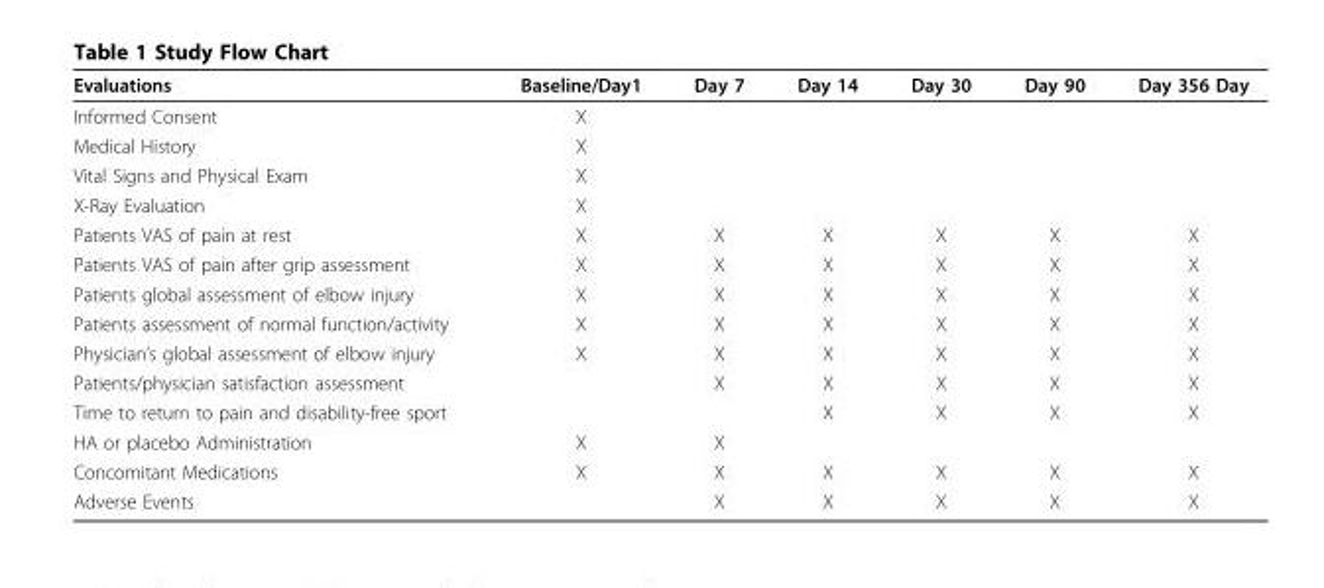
<table><thead><tr><td>Evaluations</td><td>Baseline/Day1</td><td>Day 7</td><td>Day 14</td><td>Day 30</td><td>Day 90</td><td>Day 356 Day</td></tr></thead><tbody><tr><td>Informed Consent</td><td>X</td><td></td><td></td><td></td><td></td><td></td></tr><tr><td>Medical History</td><td>X</td><td></td><td></td><td></td><td></td><td></td></tr><tr><td>Vital Signs and Physical Exam</td><td>X</td><td></td><td></td><td></td><td></td><td></td></tr><tr><td>X-Ray Evaluation</td><td>X</td><td></td><td></td><td></td><td></td><td></td></tr><tr><td>Patients VAS of pain at rest</td><td>X</td><td>X</td><td>X</td><td>X</td><td>X</td><td>X</td></tr><tr><td>Patients VAS of pain after grip assessment</td><td>X</td><td>X</td><td>X</td><td>X</td><td>X</td><td>X</td></tr><tr><td>Patients global assessment of elbow injury</td><td>X</td><td>X</td><td>X</td><td>X</td><td>X</td><td>X</td></tr><tr><td>Patients assessment of normal function/activity</td><td>X</td><td>X</td><td>X</td><td>X</td><td>X</td><td>X</td></tr><tr><td>Physician’s global assessment of elbow injury</td><td>X</td><td>X</td><td>X</td><td>X</td><td>X</td><td>X</td></tr><tr><td>Patients/physician satisfaction assessment</td><td></td><td>X</td><td>X</td><td>X</td><td>X</td><td>X</td></tr><tr><td>Time to return to pain and disability-free sport</td><td></td><td></td><td>X</td><td>X</td><td>X</td><td>X</td></tr><tr><td>HA or placebo Administration</td><td>X</td><td>X</td><td></td><td></td><td></td><td></td></tr><tr><td>Concomitant Medications</td><td>X</td><td>X</td><td>X</td><td>X</td><td>X</td><td>X</td></tr><tr><td>Adverse Events</td><td></td><td>X</td><td>X</td><td>X</td><td>X</td><td>X</td></tr></tbody></table>